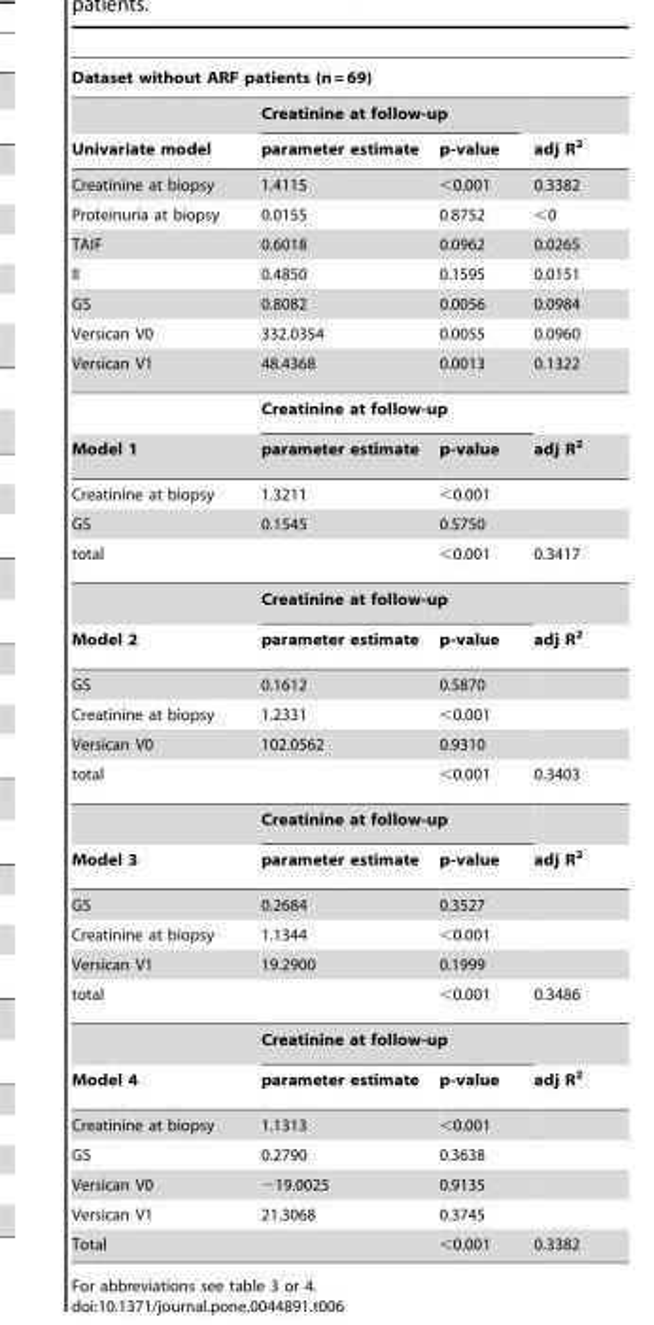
<table><thead><tr><td colspan="4">Dataset without ARF patients (n = 69)</td></tr><tr><td rowspan="2">Univariate model</td><td colspan="2">Creatinine at follow-up</td><td rowspan="2">adj R2</td></tr><tr><td>parameter estimate</td><td>p-value</td></tr></thead><tbody><tr><td>Creatinine at biopsy</td><td>1.4115</td><td>&lt;0.001</td><td>0.3382</td></tr><tr><td>Proteinuria at biopsy</td><td>0.0155</td><td>0.8752</td><td>&lt;0</td></tr><tr><td>TAIF</td><td>0.6018</td><td>0.0962</td><td>0.0265</td></tr><tr><td>II</td><td>0.4850</td><td>0.1595</td><td>0.0151</td></tr><tr><td>GS</td><td>0.8082</td><td>0.0056</td><td>0.0984</td></tr><tr><td>Versican V0</td><td>332.0354</td><td>0.0055</td><td>0.0960</td></tr><tr><td rowspan="2">Versican V1</td><td>48.4368</td><td>0.0013</td><td>0.1322</td></tr><tr><td colspan="2">Creatinine at follow-up</td><td></td></tr><tr><td>Model 1</td><td>parameter estimate</td><td>p-value</td><td>adj R<sup>2</sup></td></tr><tr><td>Creatinine at biopsy</td><td>1.3211</td><td>&lt;0.001</td><td></td></tr><tr><td>GS</td><td>0.1545</td><td>0.5750</td><td></td></tr><tr><td rowspan="2">total</td><td></td><td>&lt;0.001</td><td>0.3417</td></tr><tr><td colspan="2">Creatinine at follow-up</td><td></td></tr><tr><td>Model 2</td><td>parameter estimate</td><td>p-value</td><td>adj R<sup>2</sup></td></tr><tr><td>GS</td><td>0.1612</td><td>0.5870</td><td></td></tr><tr><td>Creatinine at biopsy</td><td>1.2331</td><td>&lt;0.001</td><td></td></tr><tr><td>Versican V0</td><td>102.0562</td><td>0.9310</td><td></td></tr><tr><td rowspan="2">total</td><td></td><td>&lt;0.001</td><td>0.3403</td></tr><tr><td colspan="2">Creatinine at follow-up</td><td></td></tr><tr><td>Model 3</td><td>parameter estimate</td><td>p-value</td><td>adj R<sup>2</sup></td></tr><tr><td>GS</td><td>0.2684</td><td>0.3527</td><td></td></tr><tr><td>Creatinine at biopsy</td><td>1.1344</td><td>&lt;0.001</td><td></td></tr><tr><td>Versican V1</td><td>19.2900</td><td>0.1999</td><td></td></tr><tr><td rowspan="2">total</td><td></td><td>&lt;0.001</td><td>0.3486</td></tr><tr><td colspan="2">Creatinine at follow-up</td><td></td></tr><tr><td>Model 4</td><td>parameter estimate</td><td>p-value</td><td>adj R<sup>2</sup></td></tr><tr><td>Creatinine at biopsy</td><td>1.1313</td><td>&lt;0.001</td><td></td></tr><tr><td>GS</td><td>0.2790</td><td>0.3638</td><td></td></tr><tr><td>Versican V0</td><td>−19.0025</td><td>0.9135</td><td></td></tr><tr><td>Versican V1</td><td>21.3068</td><td>0.3745</td><td></td></tr><tr><td>Total</td><td></td><td>&lt;0.001</td><td>0.3382</td></tr></tbody></table>